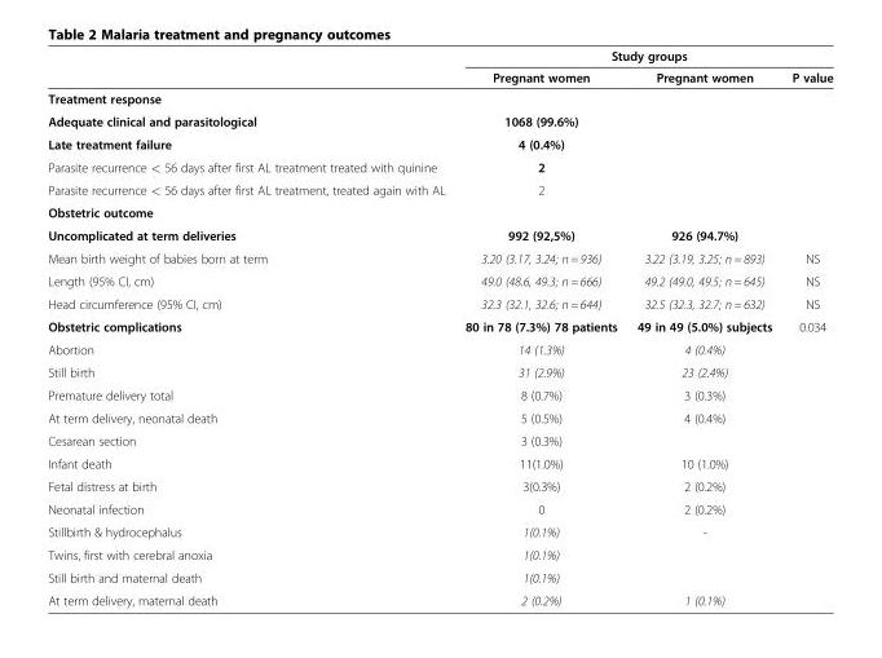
<table><thead><tr><td rowspan="2"></td><td colspan="3">Study groups</td></tr><tr><td>Pregnant women</td><td>Pregnant women</td><td>P value</td></tr></thead><tbody><tr><td colspan="4">Treatment response</td></tr><tr><td>Adequate clinical and parasitological</td><td>1068 (99.6%)</td><td></td><td></td></tr><tr><td>Late treatment failure</td><td>4 (0.4%)</td><td></td><td></td></tr><tr><td>Parasite recurrence &lt; 56 days after first AL treatment treated with quinine</td><td>2</td><td></td><td></td></tr><tr><td>Parasite recurrence &lt; 56 days after first AL treatment, treated again with AL</td><td>2</td><td></td><td></td></tr><tr><td colspan="4">Obstetric outcome</td></tr><tr><td>Uncomplicated at term deliveries</td><td>992 (92,5%)</td><td>926 (94.7%)</td><td></td></tr><tr><td>Mean birth weight of babies born at term</td><td>3.20 (3.17, 3.24; n = 936)</td><td>3.22 (3.19, 3.25; n = 893)</td><td>NS</td></tr><tr><td>Length (95% CI, cm)</td><td>49.0 (48.6, 49.3; n = 666)</td><td>49.2 (49.0, 49.5; n = 645)</td><td>NS</td></tr><tr><td>Head circumference (95% CI, cm)</td><td>32.3 (32.1, 32.6; n = 644)</td><td>32.5 (32.3, 32.7; n = 632)</td><td>NS</td></tr><tr><td>Obstetric complications</td><td>80 in 78 (7.3%) 78 patients</td><td>49 in 49 (5.0%) subjects</td><td>0.034</td></tr><tr><td>Abortion</td><td>14 (1.3%)</td><td>4 (0.4%)</td><td></td></tr><tr><td>Still birth</td><td>31 (2.9%)</td><td>23 (2.4%)</td><td></td></tr><tr><td>Premature delivery total</td><td>8 (0.7%)</td><td>3 (0.3%)</td><td></td></tr><tr><td>At term delivery, neonatal death</td><td>5 (0.5%)</td><td>4 (0.4%)</td><td></td></tr><tr><td>Cesarean section</td><td>3 (0.3%)</td><td></td><td></td></tr><tr><td>Infant death</td><td>11(1.0%)</td><td>10 (1.0%)</td><td></td></tr><tr><td>Fetal distress at birth</td><td>3(0.3%)</td><td>2 (0.2%)</td><td></td></tr><tr><td>Neonatal infection</td><td>0</td><td>2 (0.2%)</td><td></td></tr><tr><td>Stillbirth &amp; hydrocephalus</td><td>1(0.1%)</td><td>-</td><td></td></tr><tr><td>Twins, first with cerebral anoxia</td><td>1(0.1%)</td><td></td><td></td></tr><tr><td>Still birth and maternal death</td><td>1(0.1%)</td><td></td><td></td></tr><tr><td>At term delivery, maternal death</td><td>2 (0.2%)</td><td>1 (0.1%)</td><td></td></tr></tbody></table>